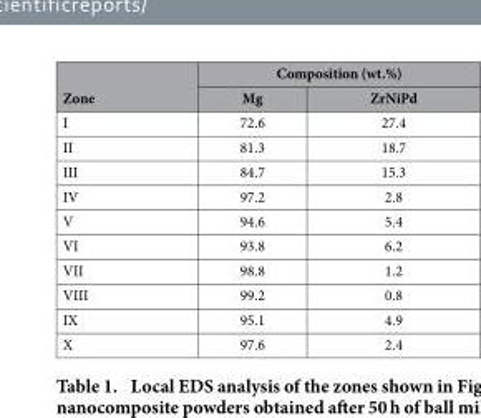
<table><thead><tr><td rowspan="2">Zone</td><td colspan="2">Composition (wt.%)</td></tr><tr><td>Mg</td><td>ZrNiPd</td></tr></thead><tbody><tr><td>I</td><td>72.6</td><td>27.4</td></tr><tr><td>II</td><td>81.3</td><td>18.7</td></tr><tr><td>III</td><td>84.7</td><td>15.3</td></tr><tr><td>IV</td><td>97.2</td><td>2.8</td></tr><tr><td>V</td><td>94.6</td><td>5.4</td></tr><tr><td>VI</td><td>93.8</td><td>6.2</td></tr><tr><td>VII</td><td>98.8</td><td>1.2</td></tr><tr><td>VIII</td><td>99.2</td><td>0.8</td></tr><tr><td>IX</td><td>95.1</td><td>4.9</td></tr><tr><td>X</td><td>97.6</td><td>2.4</td></tr></tbody></table>